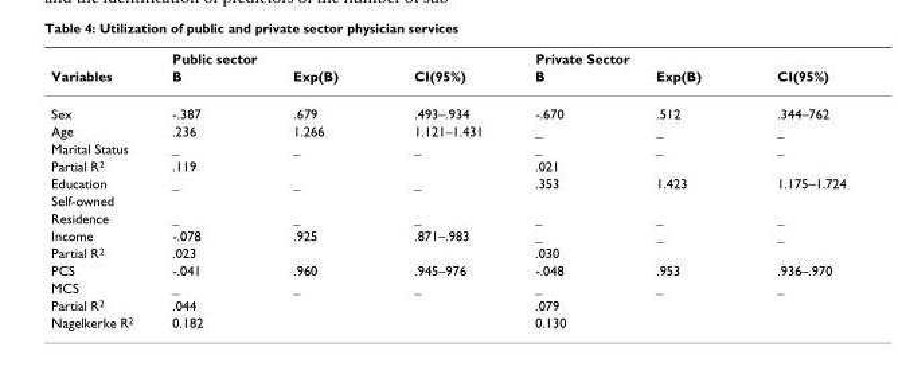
<table><thead><tr><td rowspan="2">Variables</td><td colspan="3">Public sector</td><td colspan="3">Private Sector</td></tr><tr><td>B</td><td>Exp(B)</td><td>CI(95%)</td><td>B</td><td>Exp(B)</td><td>CI(95%)</td></tr></thead><tbody><tr><td>Sex</td><td>-.387</td><td>.679</td><td>.493–.934</td><td>-.670</td><td>.512</td><td>.344–762</td></tr><tr><td>Age</td><td>.236</td><td>1.266</td><td>1.121–1.431</td><td>_</td><td>_</td><td>_</td></tr><tr><td>Marital Status</td><td>_</td><td>_</td><td>_</td><td>_</td><td>_</td><td>_</td></tr><tr><td>Partial R2</td><td>.119</td><td></td><td></td><td>.021</td><td></td><td></td></tr><tr><td>Education</td><td>_</td><td>_</td><td>_</td><td>.353</td><td>1.423</td><td>1.175–1.724</td></tr><tr><td colspan="7">Self-owned</td></tr><tr><td>Residence</td><td>_</td><td>_</td><td>_</td><td>_</td><td>_</td><td>_</td></tr><tr><td>Income</td><td>-.078</td><td>.925</td><td>.871–.983</td><td>_</td><td>_</td><td>_</td></tr><tr><td>Partial R2</td><td>.023</td><td></td><td></td><td>.030</td><td></td><td></td></tr><tr><td>PCS</td><td>-.041</td><td>.960</td><td>.945–976</td><td>-.048</td><td>.953</td><td>.936–.970</td></tr><tr><td>MCS</td><td>_</td><td>_</td><td>_</td><td>_</td><td>_</td><td>_</td></tr><tr><td>Partial R2</td><td>.044</td><td></td><td></td><td>.079</td><td></td><td></td></tr><tr><td>Nagelkerke R2</td><td>0.182</td><td></td><td></td><td>0.130</td><td></td><td></td></tr></tbody></table>